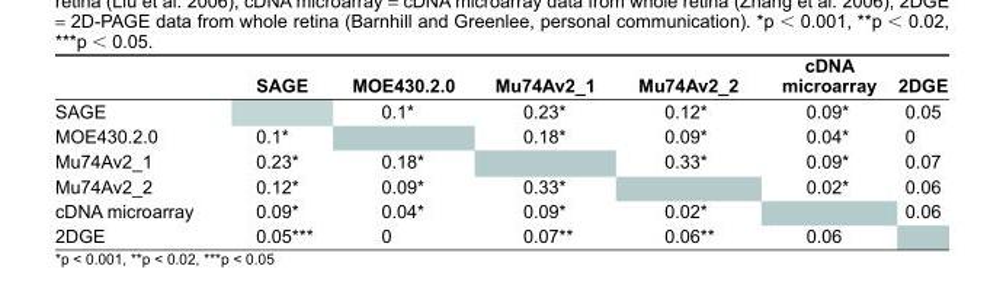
<table><thead><tr><td></td><td>SAGE</td><td>MOE430.2.0</td><td>Mu74Av2_1</td><td>Mu74Av2_2</td><td>cDNA microarray</td><td>2DGE</td></tr></thead><tbody><tr><td>SAGE</td><td></td><td>0.1*</td><td>0.23*</td><td>0.12*</td><td>0.09*</td><td>0.05</td></tr><tr><td>MOE430.2.0</td><td>0.1*</td><td></td><td>0.18*</td><td>0.09*</td><td>0.04*</td><td>0</td></tr><tr><td>Mu74Av2_1</td><td>0.23*</td><td>0.18*</td><td></td><td>0.33*</td><td>0.09*</td><td>0.07</td></tr><tr><td>Mu74Av2_2</td><td>0.12*</td><td>0.09*</td><td>0.33*</td><td></td><td>0.02*</td><td>0.06</td></tr><tr><td>cDNA microarray</td><td>0.09*</td><td>0.04*</td><td>0.09*</td><td>0.02*</td><td></td><td>0.06</td></tr><tr><td>2DGE</td><td>0.05***</td><td>0</td><td>0.07**</td><td>0.06**</td><td>0.06</td><td></td></tr></tbody></table>